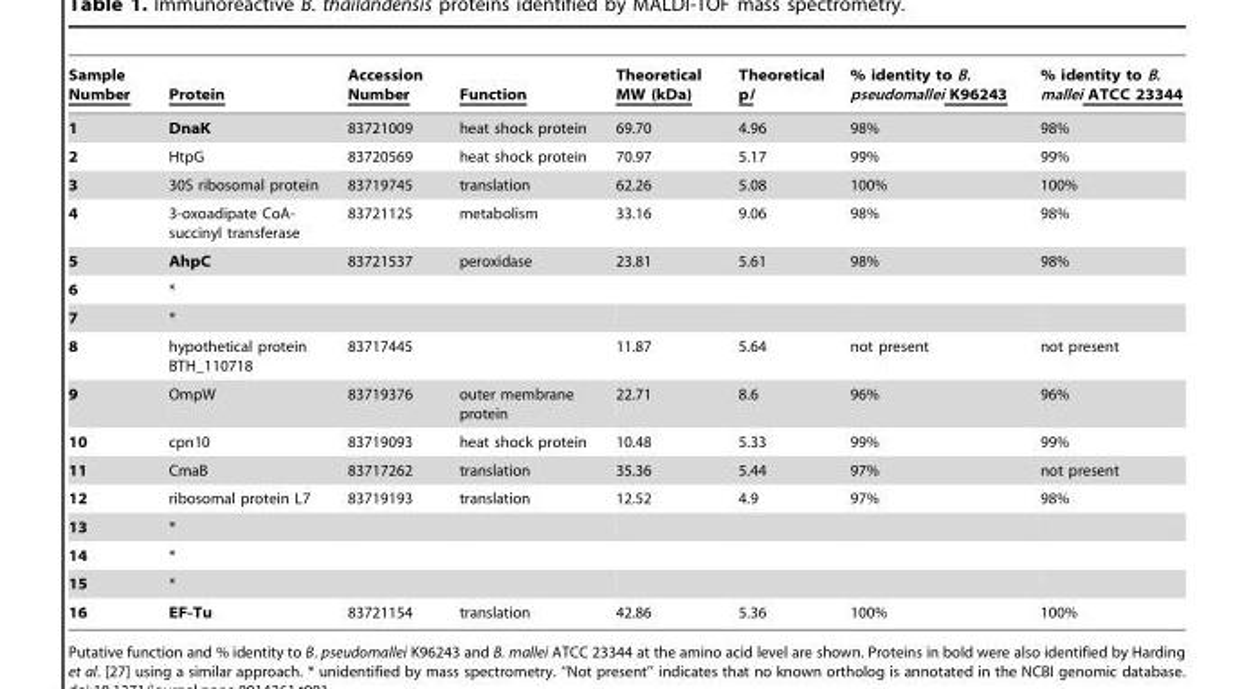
<table><thead><tr><td>Sample Number</td><td>Protein</td><td>Accession Number</td><td>Function</td><td>Theoretical MW (kDa)</td><td>Theoretical pI</td><td>% identity to B. pseudomallei K96243</td><td>% identity to B. mallei ATCC 23344</td></tr></thead><tbody><tr><td>1</td><td>DnaK</td><td>83721009</td><td>heat shock protein</td><td>69.70</td><td>4.96</td><td>98%</td><td>98%</td></tr><tr><td>2</td><td>HtpG</td><td>83720569</td><td>heat shock protein</td><td>70.97</td><td>5.17</td><td>99%</td><td>99%</td></tr><tr><td>3</td><td>30S ribosomal protein</td><td>83719745</td><td>translation</td><td>62.26</td><td>5.08</td><td>100%</td><td>100%</td></tr><tr><td>4</td><td>3-oxoadipate CoA- succinyl transferase</td><td>83721125</td><td>metabolism</td><td>33.16</td><td>9.06</td><td>98%</td><td>98%</td></tr><tr><td>5</td><td>AhpC</td><td>83721537</td><td>peroxidase</td><td>23.81</td><td>5.61</td><td>98%</td><td>98%</td></tr><tr><td>6</td><td>*</td><td></td><td></td><td></td><td></td><td></td><td></td></tr><tr><td>7</td><td>*</td><td></td><td></td><td></td><td></td><td></td><td></td></tr><tr><td>8</td><td>hypothetical protein BTH_110718</td><td>83717445</td><td></td><td>11.87</td><td>5.64</td><td>not present</td><td>not present</td></tr><tr><td>9</td><td>OmpW</td><td>83719376</td><td>outer membrane protein</td><td>22.71</td><td>8.6</td><td>96%</td><td>96%</td></tr><tr><td>10</td><td>cpn10</td><td>83719093</td><td>heat shock protein</td><td>10.48</td><td>5.33</td><td>99%</td><td>99%</td></tr><tr><td>11</td><td>CmaB</td><td>83717262</td><td>translation</td><td>35.36</td><td>5.44</td><td>97%</td><td>not present</td></tr><tr><td>12</td><td>ribosomal protein L7</td><td>83719193</td><td>translation</td><td>12.52</td><td>4.9</td><td>97%</td><td>98%</td></tr><tr><td>13</td><td>*</td><td></td><td></td><td></td><td></td><td></td><td></td></tr><tr><td>14</td><td>*</td><td></td><td></td><td></td><td></td><td></td><td></td></tr><tr><td>15</td><td>*</td><td></td><td></td><td></td><td></td><td></td><td></td></tr><tr><td>16</td><td>EF-Tu</td><td>83721154</td><td>translation</td><td>42.86</td><td>5.36</td><td>100%</td><td>100%</td></tr></tbody></table>